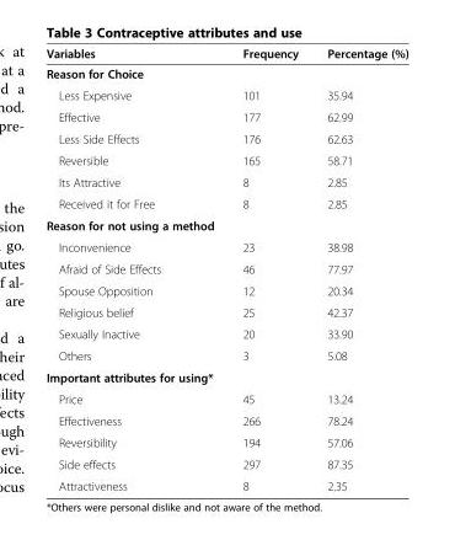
<table><thead><tr><td>Variables</td><td>Frequency</td><td>Percentage (%)</td></tr></thead><tbody><tr><td colspan="3">Reason for Choice</td></tr><tr><td>Less Expensive</td><td>101</td><td>35.94</td></tr><tr><td>Effective</td><td>177</td><td>62.99</td></tr><tr><td>Less Side Effects</td><td>176</td><td>62.63</td></tr><tr><td>Reversible</td><td>165</td><td>58.71</td></tr><tr><td>Its Attractive</td><td>8</td><td>2.85</td></tr><tr><td>Received it for Free</td><td>8</td><td>2.85</td></tr><tr><td colspan="3">Reason for not using a method</td></tr><tr><td>Inconvenience</td><td>23</td><td>38.98</td></tr><tr><td>Afraid of Side Effects</td><td>46</td><td>77.97</td></tr><tr><td>Spouse Opposition</td><td>12</td><td>20.34</td></tr><tr><td>Religious belief</td><td>25</td><td>42.37</td></tr><tr><td>Sexually Inactive</td><td>20</td><td>33.90</td></tr><tr><td>Others</td><td>3</td><td>5.08</td></tr><tr><td colspan="3">Important attributes for using*</td></tr><tr><td>Price</td><td>45</td><td>13.24</td></tr><tr><td>Effectiveness</td><td>266</td><td>78.24</td></tr><tr><td>Reversibility</td><td>194</td><td>57.06</td></tr><tr><td>Side effects</td><td>297</td><td>87.35</td></tr><tr><td>Attractiveness</td><td>8</td><td>2.35</td></tr></tbody></table>